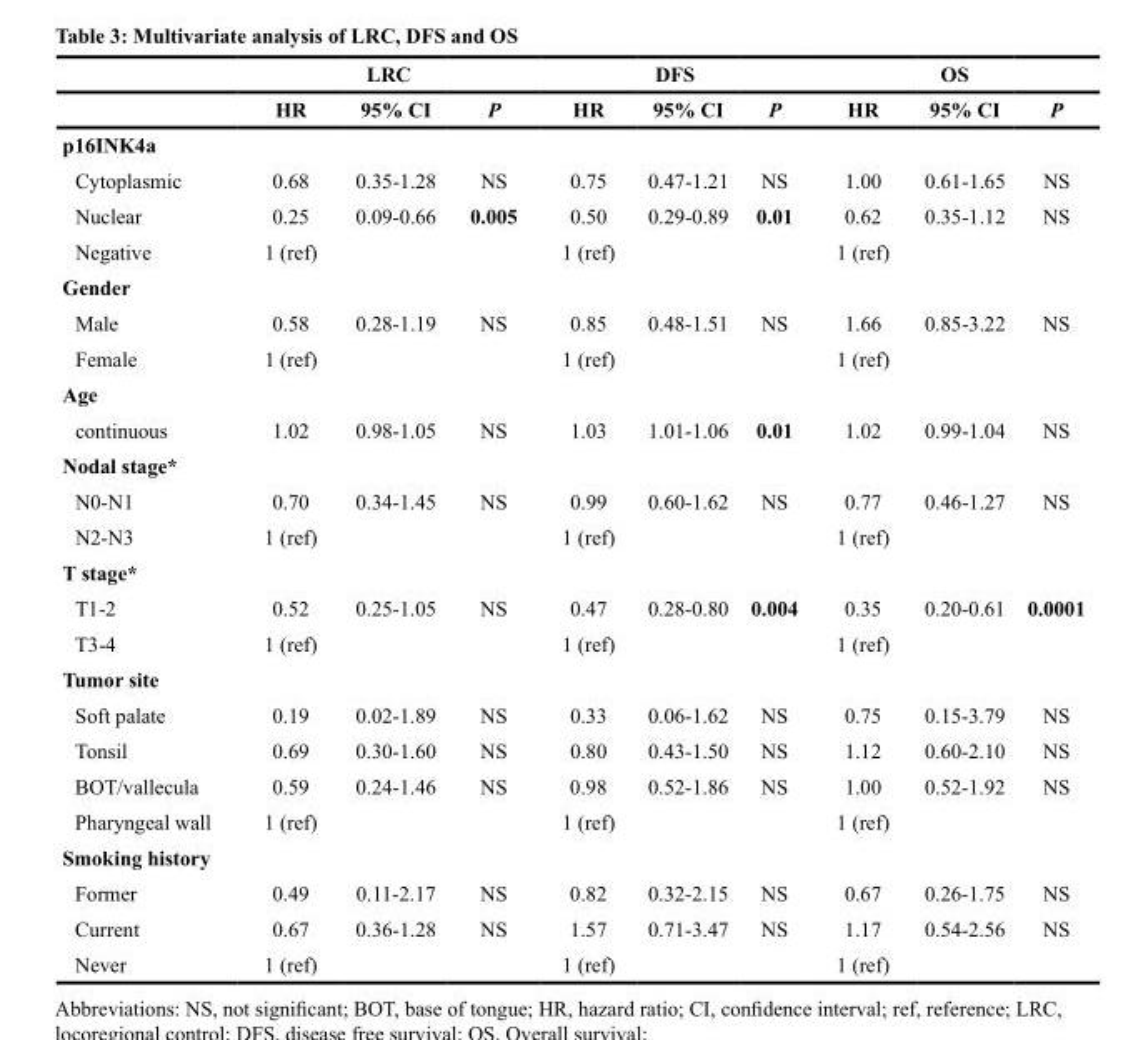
<table><thead><tr><td rowspan="2"></td><td colspan="3">LRC</td><td colspan="3">DFS</td><td colspan="3">OS</td></tr><tr><td>HR</td><td>95% CI</td><td>P</td><td>HR</td><td>95% CI</td><td>P</td><td>HR</td><td>95% CI</td><td>P</td></tr></thead><tbody><tr><td colspan="10">p16INK4a</td></tr><tr><td>Cytoplasmic</td><td>0.68</td><td>0.35-1.28</td><td>NS</td><td>0.75</td><td>0.47-1.21</td><td>NS</td><td>1.00</td><td>0.61-1.65</td><td>NS</td></tr><tr><td>Nuclear</td><td>0.25</td><td>0.09-0.66</td><td>0.005</td><td>0.50</td><td>0.29-0.89</td><td>0.01</td><td>0.62</td><td>0.35-1.12</td><td>NS</td></tr><tr><td>Negative</td><td>1 (ref)</td><td></td><td></td><td>1 (ref)</td><td></td><td></td><td>1 (ref)</td><td></td><td></td></tr><tr><td colspan="10">Gender</td></tr><tr><td>Male</td><td>0.58</td><td>0.28-1.19</td><td>NS</td><td>0.85</td><td>0.48-1.51</td><td>NS</td><td>1.66</td><td>0.85-3.22</td><td>NS</td></tr><tr><td>Female</td><td>1 (ref)</td><td></td><td></td><td>1 (ref)</td><td></td><td></td><td>1 (ref)</td><td></td><td></td></tr><tr><td colspan="10">Age</td></tr><tr><td>continuous</td><td>1.02</td><td>0.98-1.05</td><td>NS</td><td>1.03</td><td>1.01-1.06</td><td>0.01</td><td>1.02</td><td>0.99-1.04</td><td>NS</td></tr><tr><td colspan="10">Nodal stage*</td></tr><tr><td>N0-N1</td><td>0.70</td><td>0.34-1.45</td><td>NS</td><td>0.99</td><td>0.60-1.62</td><td>NS</td><td>0.77</td><td>0.46-1.27</td><td>NS</td></tr><tr><td>N2-N3</td><td>1 (ref)</td><td></td><td></td><td>1 (ref)</td><td></td><td></td><td>1 (ref)</td><td></td><td></td></tr><tr><td colspan="10">T stage*</td></tr><tr><td>T1-2</td><td>0.52</td><td>0.25-1.05</td><td>NS</td><td>0.47</td><td>0.28-0.80</td><td>0.004</td><td>0.35</td><td>0.20-0.61</td><td>0.0001</td></tr><tr><td>T3-4</td><td>1 (ref)</td><td></td><td></td><td>1 (ref)</td><td></td><td></td><td>1 (ref)</td><td></td><td></td></tr><tr><td colspan="10">Tumor site</td></tr><tr><td>Soft palate</td><td>0.19</td><td>0.02-1.89</td><td>NS</td><td>0.33</td><td>0.06-1.62</td><td>NS</td><td>0.75</td><td>0.15-3.79</td><td>NS</td></tr><tr><td>Tonsil</td><td>0.69</td><td>0.30-1.60</td><td>NS</td><td>0.80</td><td>0.43-1.50</td><td>NS</td><td>1.12</td><td>0.60-2.10</td><td>NS</td></tr><tr><td>BOT/vallecula</td><td>0.59</td><td>0.24-1.46</td><td>NS</td><td>0.98</td><td>0.52-1.86</td><td>NS</td><td>1.00</td><td>0.52-1.92</td><td>NS</td></tr><tr><td>Pharyngeal wall</td><td>1 (ref)</td><td></td><td></td><td>1 (ref)</td><td></td><td></td><td>1 (ref)</td><td></td><td></td></tr><tr><td colspan="10">Smoking history</td></tr><tr><td>Former</td><td>0.49</td><td>0.11-2.17</td><td>NS</td><td>0.82</td><td>0.32-2.15</td><td>NS</td><td>0.67</td><td>0.26-1.75</td><td>NS</td></tr><tr><td>Current</td><td>0.67</td><td>0.36-1.28</td><td>NS</td><td>1.57</td><td>0.71-3.47</td><td>NS</td><td>1.17</td><td>0.54-2.56</td><td>NS</td></tr><tr><td>Never</td><td>1 (ref)</td><td></td><td></td><td>1 (ref)</td><td></td><td></td><td>1 (ref)</td><td></td><td></td></tr></tbody></table>